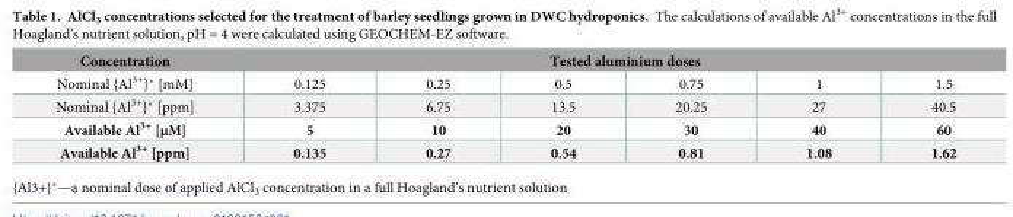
<table><thead><tr><td rowspan="2">Concentration Nominal {Al<sup>3+</sup>}* [mM]</td><td colspan="6">Tested aluminium doses</td></tr><tr><td>0.125</td><td>0.25</td><td>0.5</td><td>0.75</td><td>1</td><td>1.5</td></tr></thead><tbody><tr><td>Nominal {Al<sup>3+</sup>}* [ppm]</td><td>3.375</td><td>6.75</td><td>13.5</td><td>20.25</td><td>27</td><td>40.5</td></tr><tr><td>Available Al<sup>3+</sup> [μM]</td><td>5</td><td>10</td><td>20</td><td>30</td><td>40</td><td>60</td></tr><tr><td>Available Al<sup>3+</sup> [ppm]</td><td>0.135</td><td>0.27</td><td>0.54</td><td>0.81</td><td>1.08</td><td>1.62</td></tr></tbody></table>